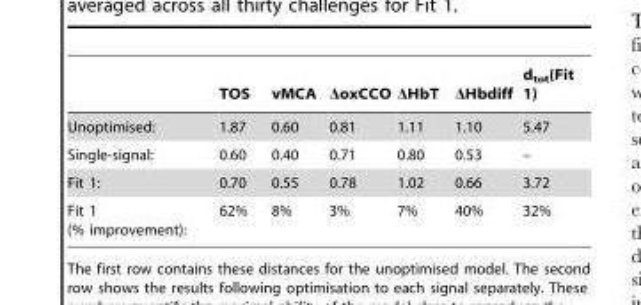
<table><thead><tr><td></td><td>TOS</td><td>vMCA</td><td>ΔoxCCO</td><td>ΔHbT</td><td>ΔHbdiff</td><td>d<sub>tot</sub>(Fit 1)</td></tr></thead><tbody><tr><td>Unoptimised:</td><td>1.87</td><td>0.60</td><td>0.81</td><td>1.11</td><td>1.10</td><td>5.47</td></tr><tr><td>Single-signal:</td><td>0.60</td><td>0.40</td><td>0.71</td><td>0.80</td><td>0.53</td><td>–</td></tr><tr><td>Fit 1:</td><td>0.70</td><td>0.55</td><td>0.78</td><td>1.02</td><td>0.66</td><td>3.72</td></tr><tr><td>Fit 1 (% improvement):</td><td>62%</td><td>8%</td><td>3%</td><td>7%</td><td>40%</td><td>32%</td></tr></tbody></table>